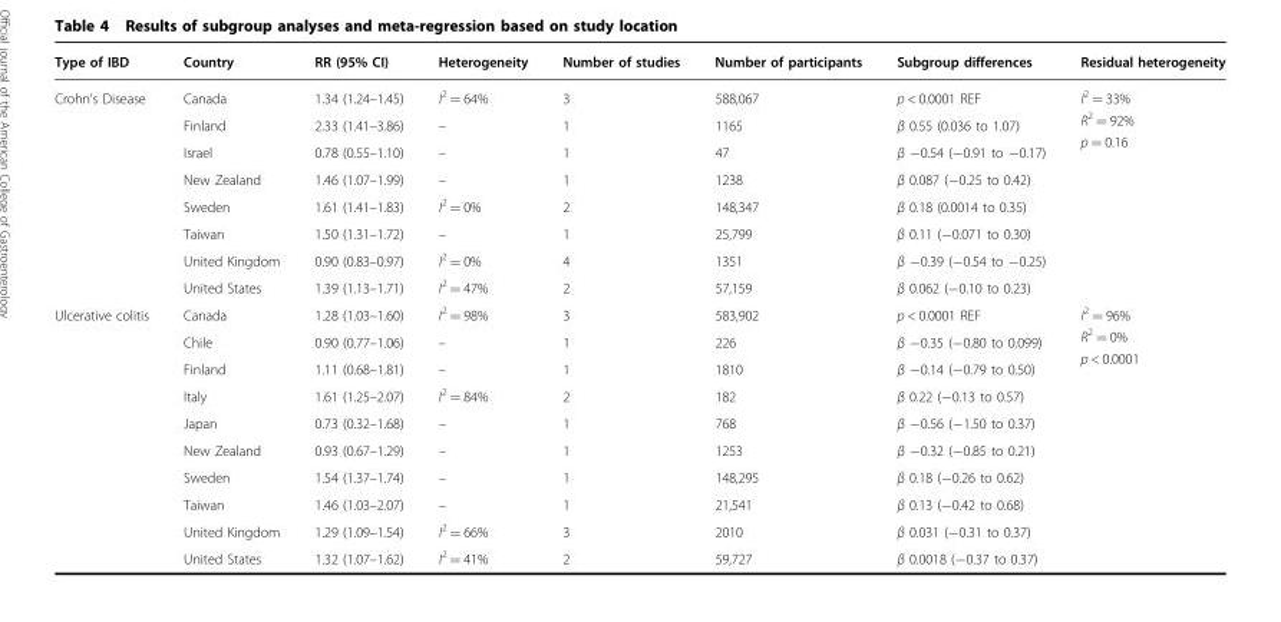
<table><thead><tr><td>Type of IBD</td><td>Country</td><td>RR (95% CI)</td><td>Heterogeneity</td><td>Number of studies</td><td>Number of participants</td><td>Subgroup differences</td><td>Residual heterogeneity</td></tr></thead><tbody><tr><td rowspan="8">Crohn’s Disease</td><td>Canada</td><td>1.34 (1.24–1.45)</td><td>I<sup>2</sup> = 64%</td><td>3</td><td>588,067</td><td>p &lt; 0.0001 REF</td><td rowspan="8">I<sup>2</sup> = 33% R<sup>2</sup> = 92% p = 0.16</td></tr><tr><td>Finland</td><td>2.33 (1.41–3.86)</td><td>–</td><td>1</td><td>1165</td><td>β 0.55 (0.036 to 1.07)</td></tr><tr><td>Israel</td><td>0.78 (0.55–1.10)</td><td>–</td><td>1</td><td>47</td><td>β −0.54 (−0.91 to −0.17)</td></tr><tr><td>New Zealand</td><td>1.46 (1.07–1.99)</td><td>–</td><td>1</td><td>1238</td><td>β 0.087 (−0.25 to 0.42)</td></tr><tr><td>Sweden</td><td>1.61 (1.41–1.83)</td><td>I<sup>2</sup> = 0%</td><td>2</td><td>148,347</td><td>β 0.18 (0.0014 to 0.35)</td></tr><tr><td>Taiwan</td><td>1.50 (1.31–1.72)</td><td>–</td><td>1</td><td>25,799</td><td>β 0.11 (−0.071 to 0.30)</td></tr><tr><td>United Kingdom</td><td>0.90 (0.83–0.97)</td><td>I<sup>2</sup> = 0%</td><td>4</td><td>1351</td><td>β −0.39 (−0.54 to −0.25)</td></tr><tr><td>United States</td><td>1.39 (1.13–1.71)</td><td>I<sup>2</sup> = 47%</td><td>2</td><td>57,159</td><td>β 0.062 (−0.10 to 0.23)</td></tr><tr><td rowspan="10">Ulcerative colitis</td><td>Canada</td><td>1.28 (1.03–1.60)</td><td>I<sup>2</sup> = 98%</td><td>3</td><td>583,902</td><td>p &lt; 0.0001 REF</td><td rowspan="10">I<sup>2</sup> = 96% R<sup>2</sup> = 0% p &lt; 0.0001</td></tr><tr><td>Chile</td><td>0.90 (0.77–1.06)</td><td>–</td><td>1</td><td>226</td><td>β −0.35 (−0.80 to 0.099)</td></tr><tr><td>Finland</td><td>1.11 (0.68–1.81)</td><td>–</td><td>1</td><td>1810</td><td>β −0.14 (−0.79 to 0.50)</td></tr><tr><td>Italy</td><td>1.61 (1.25–2.07)</td><td>I<sup>2</sup> = 84%</td><td>2</td><td>182</td><td>β 0.22 (−0.13 to 0.57)</td></tr><tr><td>Japan</td><td>0.73 (0.32–1.68)</td><td>–</td><td>1</td><td>768</td><td>β −0.56 (−1.50 to 0.37)</td></tr><tr><td>New Zealand</td><td>0.93 (0.67–1.29)</td><td>–</td><td>1</td><td>1253</td><td>β −0.32 (−0.85 to 0.21)</td></tr><tr><td>Sweden</td><td>1.54 (1.37–1.74)</td><td>–</td><td>1</td><td>148,295</td><td>β 0.18 (−0.26 to 0.62)</td></tr><tr><td>Taiwan</td><td>1.46 (1.03–2.07)</td><td>–</td><td>1</td><td>21,541</td><td>β 0.13 (−0.42 to 0.68)</td></tr><tr><td>United Kingdom</td><td>1.29 (1.09–1.54)</td><td>I<sup>2</sup> = 66%</td><td>3</td><td>2010</td><td>β 0.031 (−0.31 to 0.37)</td></tr><tr><td>United States</td><td>1.32 (1.07–1.62)</td><td>I<sup>2</sup> = 41%</td><td>2</td><td>59,727</td><td>β 0.0018 (−0.37 to 0.37)</td></tr></tbody></table>